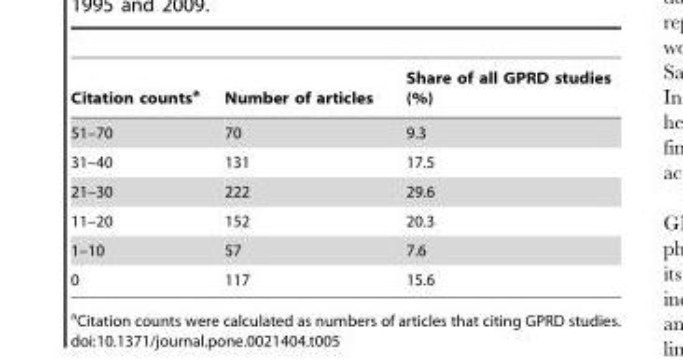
<table><thead><tr><td>Citation counts<sup>a</sup></td><td>Number of articles</td><td>Share of all GPRD studies (%)</td></tr></thead><tbody><tr><td>51–70</td><td>70</td><td>9.3</td></tr><tr><td>31–40</td><td>131</td><td>17.5</td></tr><tr><td>21–30</td><td>222</td><td>29.6</td></tr><tr><td>11–20</td><td>152</td><td>20.3</td></tr><tr><td>1–10</td><td>57</td><td>7.6</td></tr><tr><td>0</td><td>117</td><td>15.6</td></tr></tbody></table>